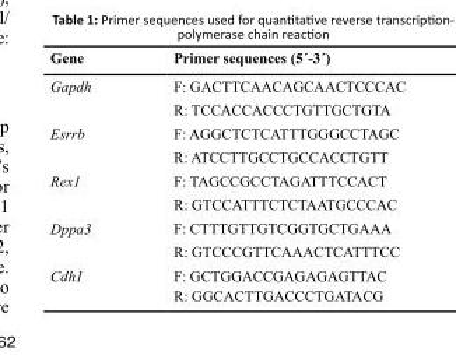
<table><thead><tr><td>Gene</td><td>Primer sequences (5ˊ-3ˊ)</td></tr></thead><tbody><tr><td rowspan="2">Gapdh</td><td>F: GACTTCAACAGCAACTCCCAC</td></tr><tr><td>R: TCCACCACCCTGTTGCTGTA</td></tr><tr><td rowspan="2">Esrrb</td><td>F: AGGCTCTCATTTGGGCCTAGC</td></tr><tr><td>R: ATCCTTGCCTGCCACCTGTT</td></tr><tr><td rowspan="2">Rex1</td><td>F: TAGCCGCCTAGATTTCCACT</td></tr><tr><td>R: GTCCATTTCTCTAATGCCCAC</td></tr><tr><td rowspan="2">Dppa3</td><td>F: CTTTGTTGTCGGTGCTGAAA</td></tr><tr><td>R: GTCCCGTTCAAACTCATTTCC</td></tr><tr><td rowspan="2">Cdh1</td><td>F: GCTGGACCGAGAGAGTTAC</td></tr><tr><td>R: GGCACTTGACCCTGATACG</td></tr></tbody></table>